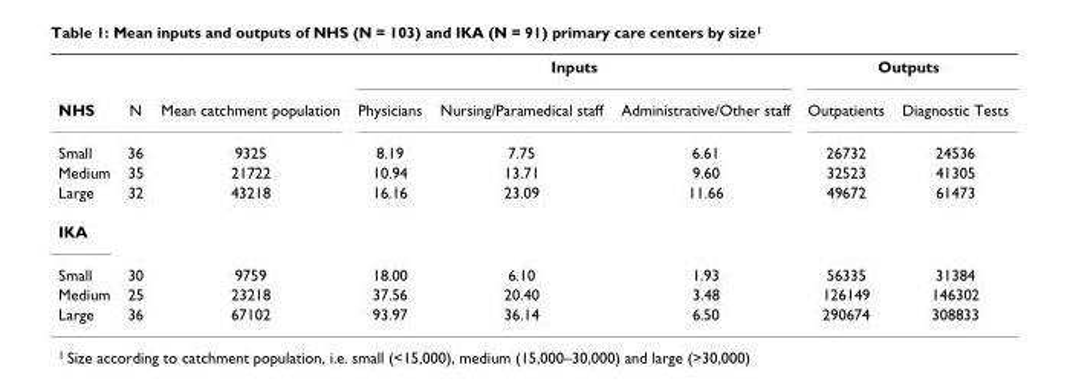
<table><thead><tr><td rowspan="2">NHS</td><td rowspan="2">N</td><td rowspan="2">Mean catchment population</td><td colspan="3">Inputs</td><td colspan="2">Outputs</td></tr><tr><td>Physicians</td><td>Nursing/Paramedical staff</td><td>Administrative/Other staff</td><td>Outpatients</td><td>Diagnostic Tests</td></tr></thead><tbody><tr><td>Small</td><td>36</td><td>9325</td><td>8.19</td><td>7.75</td><td>6.61</td><td>26732</td><td>24536</td></tr><tr><td>Medium</td><td>35</td><td>21722</td><td>10.94</td><td>13.71</td><td>9.60</td><td>32523</td><td>41305</td></tr><tr><td>Large</td><td>32</td><td>43218</td><td>16.16</td><td>23.09</td><td>11.66</td><td>49672</td><td>61473</td></tr><tr><td colspan="8">IKA</td></tr><tr><td>Small</td><td>30</td><td>9759</td><td>18.00</td><td>6.10</td><td>1.93</td><td>56335</td><td>31384</td></tr><tr><td>Medium</td><td>25</td><td>23218</td><td>37.56</td><td>20.40</td><td>3.48</td><td>126149</td><td>146302</td></tr><tr><td>Large</td><td>36</td><td>67102</td><td>93.97</td><td>36.14</td><td>6.50</td><td>290674</td><td>308833</td></tr></tbody></table>